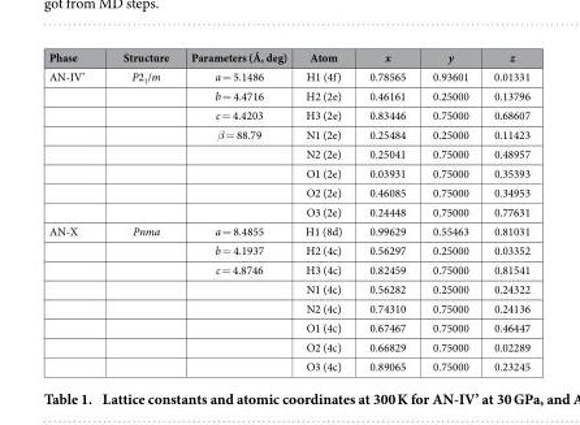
<table><thead><tr><td>Phase</td><td>Structure</td><td>Parameters (Å, deg)</td><td>Atom</td><td>x</td><td>y</td><td>z</td></tr></thead><tbody><tr><td rowspan="8">AN-IV’</td><td>P2<sub>1</sub>/m</td><td>a = 5.1486</td><td>H1 (4f)</td><td>0.78565</td><td>0.93601</td><td>0.01331</td></tr><tr><td></td><td>b = 4.4716</td><td>H2 (2e)</td><td>0.46161</td><td>0.25000</td><td>0.13796</td></tr><tr><td></td><td>c = 4.4203</td><td>H3 (2e)</td><td>0.83446</td><td>0.75000</td><td>0.68607</td></tr><tr><td></td><td>β = 88.79</td><td>N1 (2e)</td><td>0.25484</td><td>0.25000</td><td>0.11423</td></tr><tr><td></td><td></td><td>N2 (2e)</td><td>0.25041</td><td>0.75000</td><td>0.48957</td></tr><tr><td></td><td></td><td>O1 (2e)</td><td>0.03931</td><td>0.75000</td><td>0.35393</td></tr><tr><td></td><td></td><td>O2 (2e)</td><td>0.46085</td><td>0.75000</td><td>0.34953</td></tr><tr><td></td><td></td><td>O3 (2e)</td><td>0.24448</td><td>0.75000</td><td>0.77631</td></tr><tr><td rowspan="8">AN-X</td><td>Pnma</td><td>a = 8.4855</td><td>H1 (8d)</td><td>0.99629</td><td>0.55463</td><td>0.81031</td></tr><tr><td></td><td>b = 4.1937</td><td>H2 (4c)</td><td>0.56297</td><td>0.25000</td><td>0.03352</td></tr><tr><td></td><td>c = 4.8746</td><td>H3 (4c)</td><td>0.82459</td><td>0.75000</td><td>0.81541</td></tr><tr><td></td><td></td><td>N1 (4c)</td><td>0.56282</td><td>0.25000</td><td>0.24322</td></tr><tr><td></td><td></td><td>N2 (4c)</td><td>0.74310</td><td>0.75000</td><td>0.24136</td></tr><tr><td></td><td></td><td>O1 (4c)</td><td>0.67467</td><td>0.75000</td><td>0.46447</td></tr><tr><td></td><td></td><td>O2 (4c)</td><td>0.66829</td><td>0.75000</td><td>0.02289</td></tr><tr><td></td><td></td><td>O3 (4c)</td><td>0.89065</td><td>0.75000</td><td>0.23245</td></tr></tbody></table>